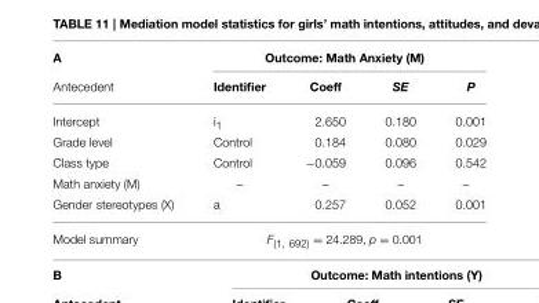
<table><thead><tr><td rowspan="2">A Antecedent</td><td colspan="4">Outcome: Math Anxiety (M)</td></tr><tr><td>Identifier</td><td>Coeff</td><td>SE</td><td>P</td></tr></thead><tbody><tr><td>Intercept</td><td>i<sub>1</sub></td><td>2.650</td><td>0.180</td><td>0.001</td></tr><tr><td>Grade level</td><td>Control</td><td>0.184</td><td>0.080</td><td>0.029</td></tr><tr><td>Class type</td><td>Control</td><td>−0.059</td><td>0.096</td><td>0.542</td></tr><tr><td>Math anxiety (M)</td><td>–</td><td>–</td><td>–</td><td>–</td></tr><tr><td>Gender stereotypes (X)</td><td>a</td><td>0.257</td><td>0.052</td><td>0.001</td></tr><tr><td>Model summary</td><td colspan="4">F<sub>(1, 692)</sub> = 24.289, p = 0.001</td></tr></tbody></table>